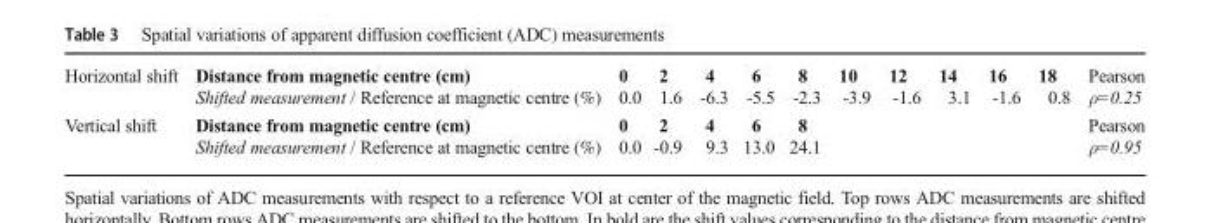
<table><tbody><tr><td rowspan="2">Horizontal shift</td><td>Distance from magnetic centre (cm)</td><td>0</td><td>2</td><td>4</td><td>6</td><td>8</td><td>10</td><td>12</td><td>14</td><td>16</td><td>18</td><td rowspan="2">Pearson ρ=0.25</td></tr><tr><td>Shifted measurement / Reference at magnetic centre (%)</td><td>0.0</td><td>1.6</td><td>-6.3</td><td>-5.5</td><td>-2.3</td><td>-3.9</td><td>-1.6</td><td>3.1</td><td>-1.6</td><td>0.8</td></tr><tr><td rowspan="2">Vertical shift</td><td>Distance from magnetic centre (cm)</td><td>0</td><td>2</td><td>4</td><td>6</td><td>8</td><td></td><td></td><td></td><td></td><td></td><td rowspan="2">Pearson ρ=0.95</td></tr><tr><td>Shifted measurement / Reference at magnetic centre (%)</td><td>0.0</td><td>-0.9</td><td>9.3</td><td>13.0</td><td>24.1</td><td></td><td></td><td></td><td></td><td></td></tr></tbody></table>